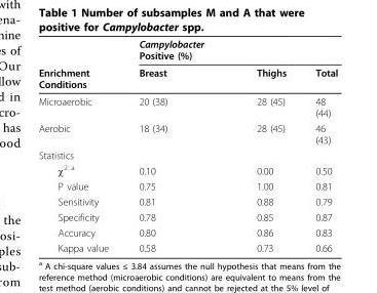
<table><thead><tr><td rowspan="2">Enrichment Conditions</td><td rowspan="2">Campylobacter Positive (%) Breast</td><td rowspan="2">Thighs</td><td rowspan="2">Total</td></tr><tr></tr></thead><tbody><tr><td>Microaerobic</td><td>20 (38)</td><td>28 (45)</td><td>48 (44)</td></tr><tr><td>Aerobic</td><td>18 (34)</td><td>28 (45)</td><td>46 (43)</td></tr><tr><td colspan="4">Statistics</td></tr><tr><td>χ<sup>2 a</sup></td><td>0.10</td><td>0.00</td><td>0.50</td></tr><tr><td>P value</td><td>0.75</td><td>1.00</td><td>0.81</td></tr><tr><td>Sensitivity</td><td>0.81</td><td>0.88</td><td>0.79</td></tr><tr><td>Specificity</td><td>0.78</td><td>0.85</td><td>0.87</td></tr><tr><td>Accuracy</td><td>0.80</td><td>0.86</td><td>0.83</td></tr><tr><td>Kappa value</td><td>0.58</td><td>0.73</td><td>0.66</td></tr></tbody></table>